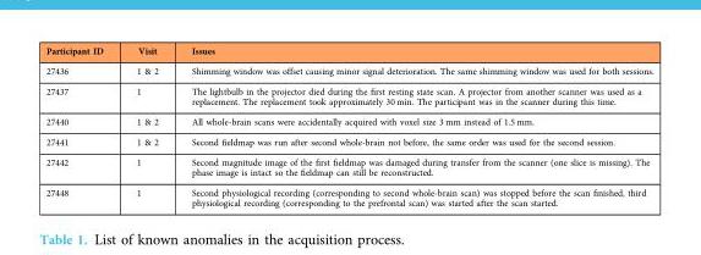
<table><thead><tr><td>Participant ID</td><td>Visit</td><td>Issues</td></tr></thead><tbody><tr><td>27436</td><td>1 &amp; 2</td><td>Shimming window was offset causing minor signal deterioration. The same shimming window was used for both sessions.</td></tr><tr><td>27437</td><td>1</td><td>The lightbulb in the projector died during the first resting state scan. A projector from another scanner was used as a replacement. The replacement took approximately 30 min. The participant was in the scanner during this time.</td></tr><tr><td>27440</td><td>1 &amp; 2</td><td>All whole-brain scans were accidentally acquired with voxel size 3 mm instead of 1.5 mm.</td></tr><tr><td>27441</td><td>1 &amp; 2</td><td>Second fieldmap was run after second whole-brain not before, the same order was used for the second session.</td></tr><tr><td>27442</td><td>1</td><td>Second magnitude image of the first fieldmap was damaged during transfer from the scanner (one slice is missing). The phase image is intact so the fieldmap can still be reconstructed.</td></tr><tr><td>27448</td><td>1</td><td>Second physiological recording (corresponding to second whole-brain scan) was stopped before the scan finished, third physiological recording (corresponding to the prefrontal scan) was started after the scan started.</td></tr></tbody></table>